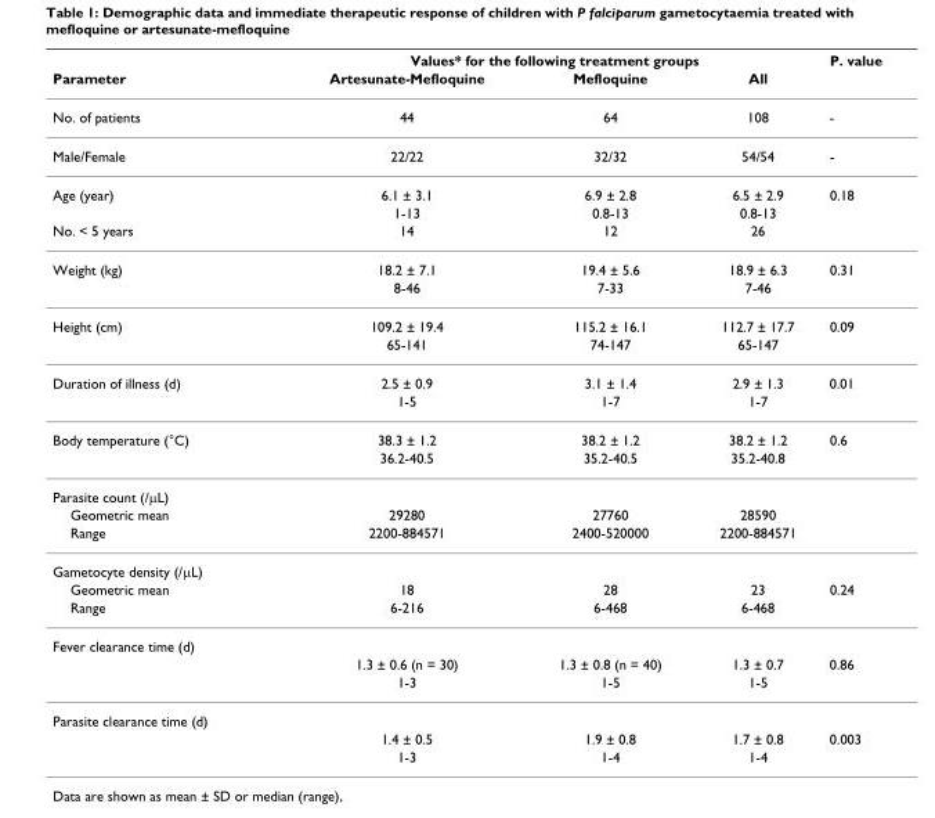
<table><thead><tr><td rowspan="2">Parameter</td><td colspan="3">Values* for the following treatment groups</td><td rowspan="2">P. value</td></tr><tr><td>Artesunate-Mefloquine</td><td>Mefloquine</td><td>All</td></tr></thead><tbody><tr><td>No. of patients</td><td>44</td><td>64</td><td>108</td><td>-</td></tr><tr><td>Male/Female</td><td>22/22</td><td>32/32</td><td>54/54</td><td>-</td></tr><tr><td rowspan="2">Age (year)</td><td>6.1 ± 3.1</td><td>6.9 ± 2.8</td><td>6.5 ± 2.9</td><td>0.18</td></tr><tr><td>1-13</td><td>0.8-13</td><td>0.8-13</td><td></td></tr><tr><td>No. &lt; 5 years</td><td>14</td><td>12</td><td>26</td><td></td></tr><tr><td rowspan="2">Weight (kg)</td><td>18.2 ± 7.1</td><td>19.4 ± 5.6</td><td>18.9 ± 6.3</td><td>0.31</td></tr><tr><td>8-46</td><td>7-33</td><td>7-46</td><td></td></tr><tr><td rowspan="2">Height (cm)</td><td>109.2 ± 19.4</td><td>115.2 ± 16.1</td><td>112.7 ± 17.7</td><td>0.09</td></tr><tr><td>65-141</td><td>74-147</td><td>65-147</td><td></td></tr><tr><td rowspan="2">Duration of illness (d)</td><td>2.5 ± 0.9</td><td>3.1 ± 1.4</td><td>2.9 ± 1.3</td><td>0.01</td></tr><tr><td>1-5</td><td>1-7</td><td>1-7</td><td></td></tr><tr><td rowspan="2">Body temperature (°C)</td><td>38.3 ± 1.2</td><td>38.2 ± 1.2</td><td>38.2 ± 1.2</td><td>0.6</td></tr><tr><td>36.2-40.5</td><td>35.2-40.5</td><td>35.2-40.8</td><td></td></tr><tr><td colspan="5">Parasite count (/μL)</td></tr><tr><td>Geometric mean</td><td>29280</td><td>27760</td><td>28590</td><td></td></tr><tr><td>Range</td><td>2200-884571</td><td>2400-520000</td><td>2200-884571</td><td></td></tr><tr><td colspan="5">Gametocyte density (/μL)</td></tr><tr><td>Geometric mean</td><td>18</td><td>28</td><td>23</td><td>0.24</td></tr><tr><td>Range</td><td>6-216</td><td>6-468</td><td>6-468</td><td></td></tr><tr><td colspan="5">Fever clearance time (d)</td></tr><tr><td></td><td>1.3 ± 0.6 (n = 30)</td><td>1.3 ± 0.8 (n = 40)</td><td>1.3 ± 0.7</td><td>0.86</td></tr><tr><td></td><td>1-3</td><td>1-5</td><td>1-5</td><td></td></tr><tr><td colspan="5">Parasite clearance time (d)</td></tr><tr><td></td><td>1.4 ± 0.5</td><td>1.9 ± 0.8</td><td>1.7 ± 0.8</td><td>0.003</td></tr><tr><td></td><td>1-3</td><td>1-4</td><td>1-4</td><td></td></tr></tbody></table>